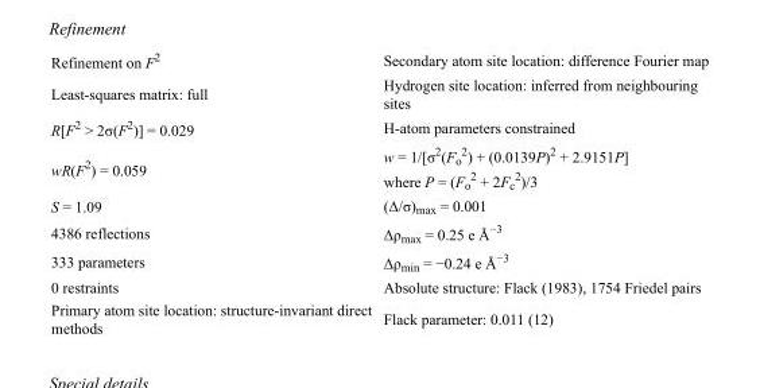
<table><tbody><tr><td>Refinement on F<sup>2</sup></td><td>Secondary atom site location: difference Fourier map</td></tr><tr><td>Least-squares matrix: full</td><td>Hydrogen site location: inferred from neighbouring sites</td></tr><tr><td>R[F<sup>2</sup> &gt; 2σ(F<sup>2</sup>)] = 0.029</td><td>H-atom parameters constrained</td></tr><tr><td>wR(F<sup>2</sup>) = 0.059</td><td>w = 1/[σ<sup>2</sup>(F<sub>o</sub> <sup>2</sup>) + (0.0139P)<sup>2</sup> + 2.9151P] where P = (F<sub>o</sub> <sup>2</sup> + 2F<sub>c</sub> <sup>2</sup>)/3</td></tr><tr><td>S = 1.09</td><td>(Δ/σ)<sub>max</sub> = 0.001</td></tr><tr><td>4386 reflections</td><td>Δρ<sub>max</sub> = 0.25 e Å<sup>−3</sup></td></tr><tr><td>333 parameters</td><td>Δρ<sub>min</sub> = −0.24 e Å<sup>−3</sup></td></tr><tr><td>0 restraints</td><td>Absolute structure: Flack (1983), 1754 Friedel pairs</td></tr><tr><td>Primary atom site location: structure-invariant direct methods</td><td>Flack parameter: 0.011 (12)</td></tr></tbody></table>